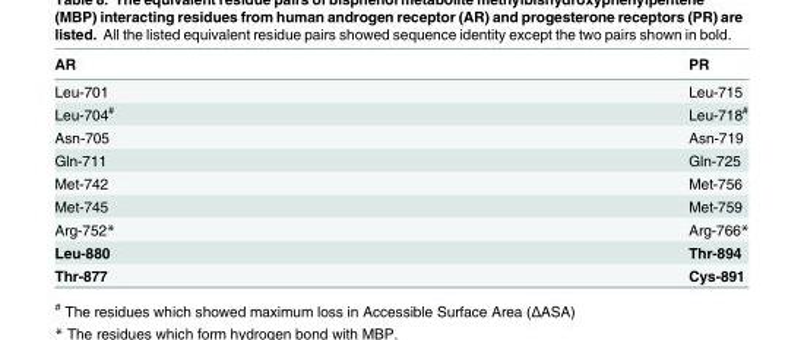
<table><thead><tr><td>AR</td><td>PR</td></tr></thead><tbody><tr><td>Leu-701</td><td>Leu-715</td></tr><tr><td>Leu-704<sup>#</sup></td><td>Leu-718<sup>#</sup></td></tr><tr><td>Asn-705</td><td>Asn-719</td></tr><tr><td>Gln-711</td><td>Gln-725</td></tr><tr><td>Met-742</td><td>Met-756</td></tr><tr><td>Met-745</td><td>Met-759</td></tr><tr><td>Arg-752*</td><td>Arg-766*</td></tr><tr><td>Leu-880</td><td>Thr-894</td></tr><tr><td>Thr-877</td><td>Cys-891</td></tr></tbody></table>